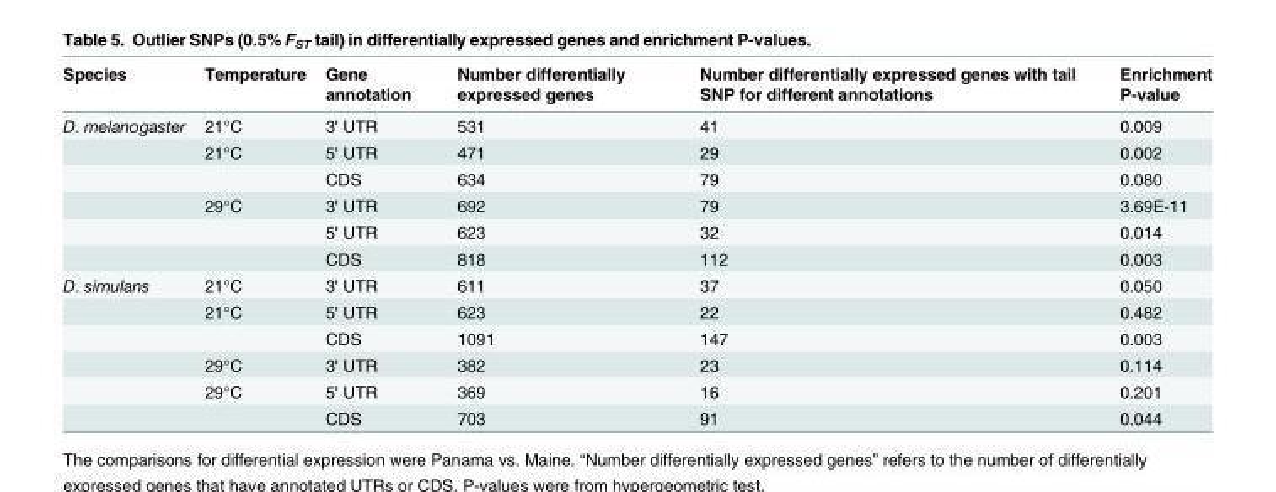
<table><thead><tr><td>Species</td><td>Temperature</td><td>Gene annotation</td><td>Number differentially expressed genes</td><td>Number differentially expressed genes with tail SNP for different annotations</td><td>Enrichment P-value</td></tr></thead><tbody><tr><td rowspan="6">D. melanogaster</td><td>21°C</td><td>3&#x27; UTR</td><td>531</td><td>41</td><td>0.009</td></tr><tr><td>21°C</td><td>5&#x27; UTR</td><td>471</td><td>29</td><td>0.002</td></tr><tr><td></td><td>CDS</td><td>634</td><td>79</td><td>0.080</td></tr><tr><td>29°C</td><td>3&#x27; UTR</td><td>692</td><td>79</td><td>3.69E-11</td></tr><tr><td></td><td>5&#x27; UTR</td><td>623</td><td>32</td><td>0.014</td></tr><tr><td></td><td>CDS</td><td>818</td><td>112</td><td>0.003</td></tr><tr><td rowspan="6">D. simulans</td><td>21°C</td><td>3&#x27; UTR</td><td>611</td><td>37</td><td>0.050</td></tr><tr><td>21°C</td><td>5&#x27; UTR</td><td>623</td><td>22</td><td>0.482</td></tr><tr><td></td><td>CDS</td><td>1091</td><td>147</td><td>0.003</td></tr><tr><td>29°C</td><td>3&#x27; UTR</td><td>382</td><td>23</td><td>0.114</td></tr><tr><td>29°C</td><td>5&#x27; UTR</td><td>369</td><td>16</td><td>0.201</td></tr><tr><td></td><td>CDS</td><td>703</td><td>91</td><td>0.044</td></tr></tbody></table>